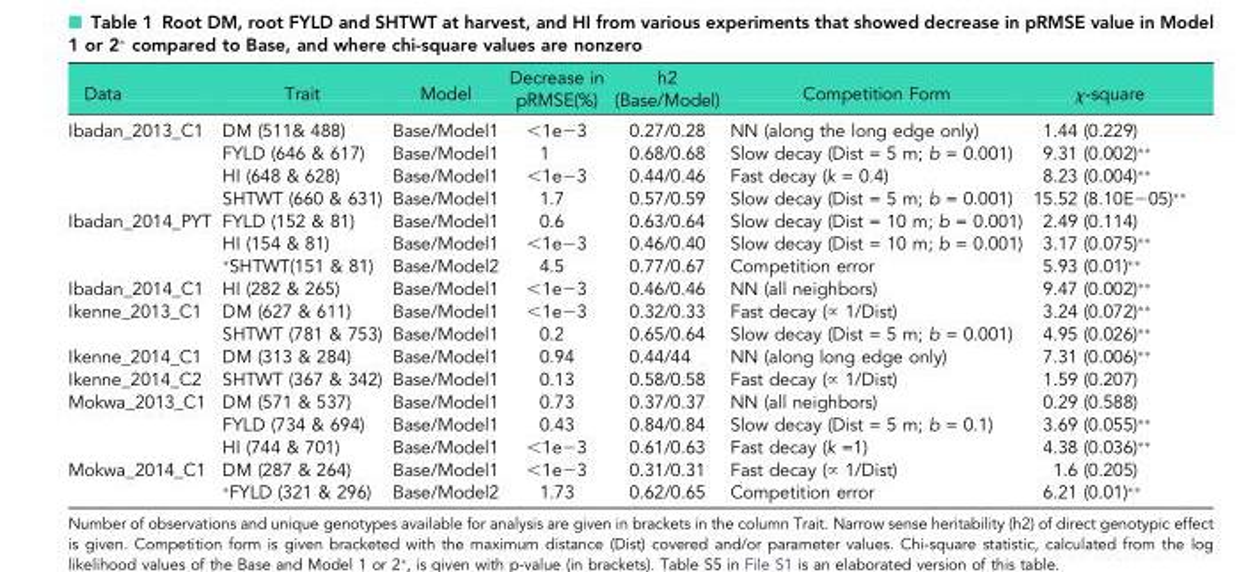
<table><thead><tr><td>Data</td><td>Trait</td><td>Model</td><td>Decrease in pRMSE(%)</td><td>h2 (Base/Model)</td><td>Competition Form</td><td>χ-square</td></tr></thead><tbody><tr><td rowspan="4">Ibadan_2013_C1</td><td>DM (511&amp; 488)</td><td>Base/Model1</td><td>&lt;1e−3</td><td>0.27/0.28</td><td>NN (along the long edge only)</td><td>1.44 (0.229)</td></tr><tr><td>FYLD (646 &amp; 617)</td><td>Base/Model1</td><td>1</td><td>0.68/0.68</td><td>Slow decay (Dist = 5 m; b = 0.001)</td><td>9.31 (0.002)**</td></tr><tr><td>HI (648 &amp; 628)</td><td>Base/Model1</td><td>&lt;1e−3</td><td>0.44/0.46</td><td>Fast decay (k = 0.4)</td><td>8.23 (0.004)**</td></tr><tr><td>SHTWT (660 &amp; 631)</td><td>Base/Model1</td><td>1.7</td><td>0.57/0.59</td><td>Slow decay (Dist = 5 m; b = 0.001)</td><td>15.52 (8.10E−05)**</td></tr><tr><td rowspan="3">Ibadan_2014_PYT</td><td>FYLD (152 &amp; 81)</td><td>Base/Model1</td><td>0.6</td><td>0.63/0.64</td><td>Slow decay (Dist = 10 m; b = 0.001)</td><td>2.49 (0.114)</td></tr><tr><td>HI (154 &amp; 81)</td><td>Base/Model1</td><td>&lt;1e−3</td><td>0.46/0.40</td><td>Slow decay (Dist = 10 m; b = 0.001)</td><td>3.17 (0.075)**</td></tr><tr><td>*SHTWT(151 &amp; 81)</td><td>Base/Model2</td><td>4.5</td><td>0.77/0.67</td><td>Competition error</td><td>5.93 (0.01)**</td></tr><tr><td>Ibadan_2014_C1</td><td>HI (282 &amp; 265)</td><td>Base/Model1</td><td>&lt;1e−3</td><td>0.46/0.46</td><td>NN (all neighbors)</td><td>9.47 (0.002)**</td></tr><tr><td rowspan="2">Ikenne_2013_C1</td><td>DM (627 &amp; 611)</td><td>Base/Model1</td><td>&lt;1e−3</td><td>0.32/0.33</td><td>Fast decay (∝ 1/Dist)</td><td>3.24 (0.072)**</td></tr><tr><td>SHTWT (781 &amp; 753)</td><td>Base/Model1</td><td>0.2</td><td>0.65/0.64</td><td>Slow decay (Dist = 5 m; b = 0.001)</td><td>4.95 (0.026)**</td></tr><tr><td>Ikenne_2014_C1</td><td>DM (313 &amp; 284)</td><td>Base/Model1</td><td>0.94</td><td>0.44/44</td><td>NN (along long edge only)</td><td>7.31 (0.006)**</td></tr><tr><td>Ikenne_2014_C2</td><td>SHTWT (367 &amp; 342)</td><td>Base/Model1</td><td>0.13</td><td>0.58/0.58</td><td>Fast decay (∝ 1/Dist)</td><td>1.59 (0.207)</td></tr><tr><td rowspan="3">Mokwa_2013_C1</td><td>DM (571 &amp; 537)</td><td>Base/Model1</td><td>0.73</td><td>0.37/0.37</td><td>NN (all neighbors)</td><td>0.29 (0.588)</td></tr><tr><td>FYLD (734 &amp; 694)</td><td>Base/Model1</td><td>0.43</td><td>0.84/0.84</td><td>Slow decay (Dist = 5 m; b = 0.1)</td><td>3.69 (0.055)**</td></tr><tr><td>HI (744 &amp; 701)</td><td>Base/Model1</td><td>&lt;1e−3</td><td>0.61/0.63</td><td>Fast decay (k =1)</td><td>4.38 (0.036)**</td></tr><tr><td rowspan="2">Mokwa_2014_C1</td><td>DM (287 &amp; 264)</td><td>Base/Model1</td><td>&lt;1e−3</td><td>0.31/0.31</td><td>Fast decay (∝ 1/Dist)</td><td>1.6 (0.205)</td></tr><tr><td>*FYLD (321 &amp; 296)</td><td>Base/Model2</td><td>1.73</td><td>0.62/0.65</td><td>Competition error</td><td>6.21 (0.01)**</td></tr></tbody></table>